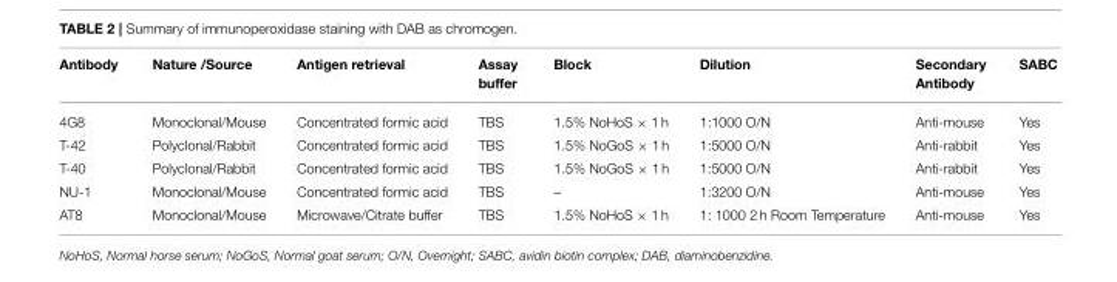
<table><thead><tr><td>Antibody</td><td>Nature /Source</td><td>Antigen retrieval</td><td>Assay buffer</td><td>Block</td><td>Dilution</td><td>Secondary Antibody</td><td>SABC</td></tr></thead><tbody><tr><td>4G8</td><td>Monoclonal/Mouse</td><td>Concentrated formic acid</td><td>TBS</td><td>1.5% NoHoS × 1 h</td><td>1:1000 O/N</td><td>Anti-mouse</td><td>Yes</td></tr><tr><td>T-42</td><td>Polyclonal/Rabbit</td><td>Concentrated formic acid</td><td>TBS</td><td>1.5% NoGoS × 1 h</td><td>1:5000 O/N</td><td>Anti-rabbit</td><td>Yes</td></tr><tr><td>T-40</td><td>Polyclonal/Rabbit</td><td>Concentrated formic acid</td><td>TBS</td><td>1.5% NoGoS × 1 h</td><td>1:5000 O/N</td><td>Anti-rabbit</td><td>Yes</td></tr><tr><td>NU-1</td><td>Monoclonal/Mouse</td><td>Concentrated formic acid</td><td>TBS</td><td>–</td><td>1:3200 O/N</td><td>Anti-mouse</td><td>Yes</td></tr><tr><td>AT8</td><td>Monoclonal/Mouse</td><td>Microwave/Citrate buffer</td><td>TBS</td><td>1.5% NoHoS × 1 h</td><td>1: 1000 2 h Room Temperature</td><td>Anti-mouse</td><td>Yes</td></tr></tbody></table>